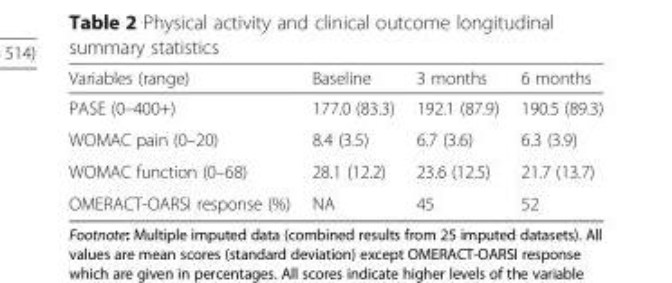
<table><thead><tr><td>Variables (range)</td><td>Baseline</td><td>3 months</td><td>6 months</td></tr></thead><tbody><tr><td>PASE (0–400+)</td><td>177.0 (83.3)</td><td>192.1 (87.9)</td><td>190.5 (89.3)</td></tr><tr><td>WOMAC pain (0–20)</td><td>8.4 (3.5)</td><td>6.7 (3.6)</td><td>6.3 (3.9)</td></tr><tr><td>WOMAC function (0–68)</td><td>28.1 (12.2)</td><td>23.6 (12.5)</td><td>21.7 (13.7)</td></tr><tr><td>OMERACT-OARSI response (%)</td><td>NA</td><td>45</td><td>52</td></tr></tbody></table>